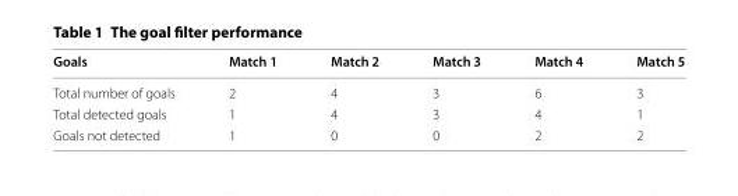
<table><thead><tr><td>Goals</td><td>Match 1</td><td>Match 2</td><td>Match 3</td><td>Match 4</td><td>Match 5</td></tr></thead><tbody><tr><td>Total number of goals</td><td>2</td><td>4</td><td>3</td><td>6</td><td>3</td></tr><tr><td>Total detected goals</td><td>1</td><td>4</td><td>3</td><td>4</td><td>1</td></tr><tr><td>Goals not detected</td><td>1</td><td>0</td><td>0</td><td>2</td><td>2</td></tr></tbody></table>